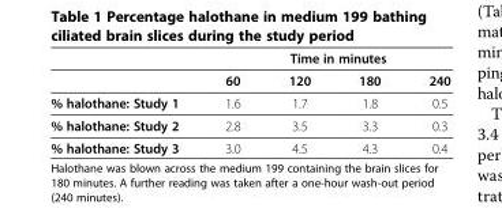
<table><thead><tr><td rowspan="2"></td><td colspan="4">Time in minutes</td></tr><tr><td>60</td><td>120</td><td>180</td><td>240</td></tr></thead><tbody><tr><td>% halothane: Study 1</td><td>1.6</td><td>1.7</td><td>1.8</td><td>0.5</td></tr><tr><td>% halothane: Study 2</td><td>2.8</td><td>3.5</td><td>3.3</td><td>0.3</td></tr><tr><td>% halothane: Study 3</td><td>3.0</td><td>4.5</td><td>4.3</td><td>0.4</td></tr></tbody></table>